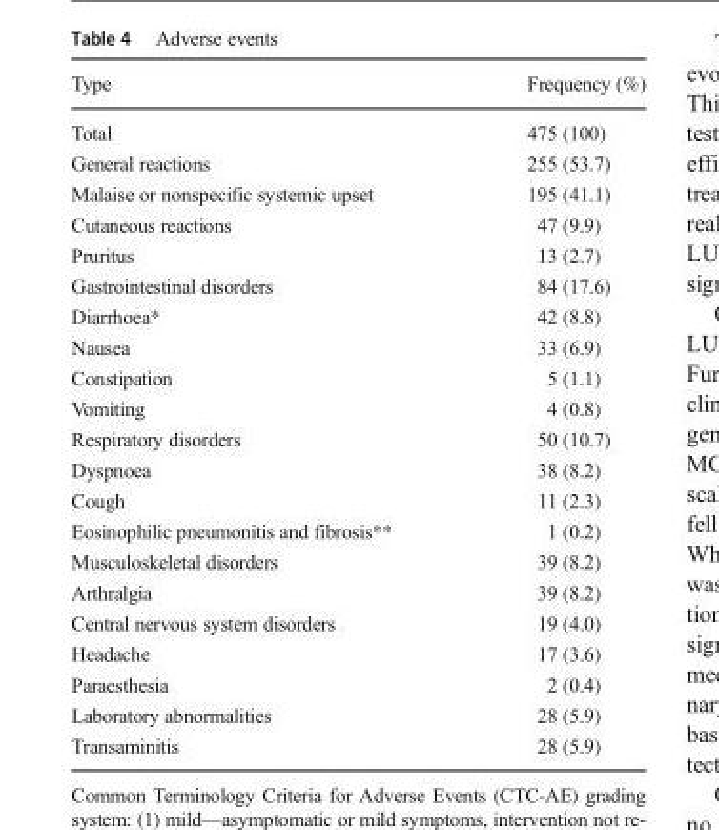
<table><thead><tr><td>Type</td><td>Frequency (%)</td></tr></thead><tbody><tr><td>Total</td><td>475 (100)</td></tr><tr><td>General reactions</td><td>255 (53.7)</td></tr><tr><td>Malaise or nonspecific systemic upset</td><td>195 (41.1)</td></tr><tr><td>Cutaneous reactions</td><td>47 (9.9)</td></tr><tr><td>Pruritus</td><td>13 (2.7)</td></tr><tr><td>Gastrointestinal disorders</td><td>84 (17.6)</td></tr><tr><td>Diarrhoea*</td><td>42 (8.8)</td></tr><tr><td>Nausea</td><td>33 (6.9)</td></tr><tr><td>Constipation</td><td>5 (1.1)</td></tr><tr><td>Vomiting</td><td>4 (0.8)</td></tr><tr><td>Respiratory disorders</td><td>50 (10.7)</td></tr><tr><td>Dyspnoea</td><td>38 (8.2)</td></tr><tr><td>Cough</td><td>11 (2.3)</td></tr><tr><td>Eosinophilic pneumonitis and fibrosis**</td><td>1 (0.2)</td></tr><tr><td>Musculoskeletal disorders</td><td>39 (8.2)</td></tr><tr><td>Arthralgia</td><td>39 (8.2)</td></tr><tr><td>Central nervous system disorders</td><td>19 (4.0)</td></tr><tr><td>Headache</td><td>17 (3.6)</td></tr><tr><td>Paraesthesia</td><td>2 (0.4)</td></tr><tr><td>Laboratory abnormalities</td><td>28 (5.9)</td></tr><tr><td>Transaminitis</td><td>28 (5.9)</td></tr></tbody></table>